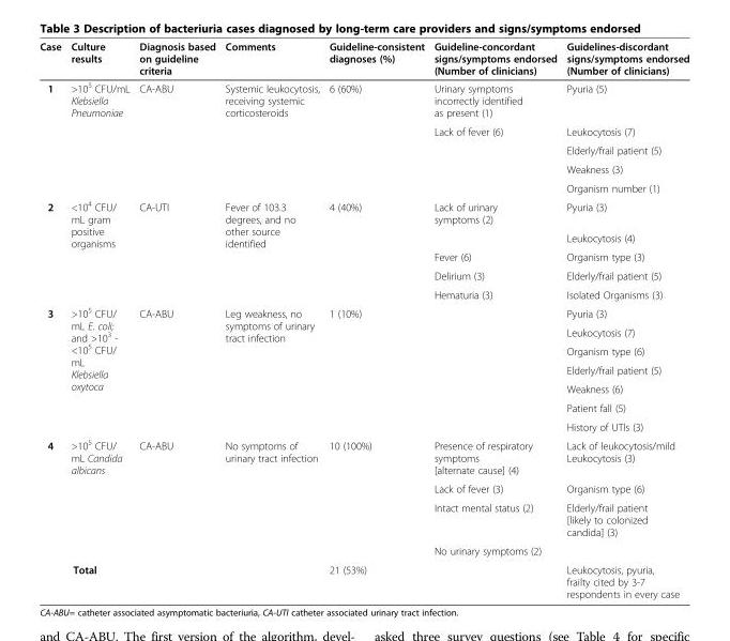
<table><thead><tr><td>Case</td><td>Culture results</td><td>Diagnosis based on guideline criteria</td><td>Comments</td><td>Guideline-consistent diagnoses (%)</td><td>Guideline-concordant signs/symptoms endorsed (Number of clinicians)</td><td>Guidelines-discordant signs/symptoms endorsed (Number of clinicians)</td></tr></thead><tbody><tr><td rowspan="5">1</td><td rowspan="5">&gt;10<sup>5</sup> CFU/mL Klebsiella Pneumoniae</td><td rowspan="5">CA-ABU</td><td rowspan="5">Systemic leukocytosis, receiving systemic corticosteroids</td><td rowspan="5">6 (60%)</td><td>Urinary symptoms incorrectly identified as present (1)</td><td>Pyuria (5)</td></tr><tr><td>Lack of fever (6)</td><td>Leukocytosis (7)</td></tr><tr><td></td><td>Elderly/frail patient (5)</td></tr><tr><td></td><td>Weakness (3)</td></tr><tr><td></td><td>Organism number (1)</td></tr><tr><td rowspan="5">2</td><td rowspan="5">&lt;10<sup>4</sup> CFU/ mL gram positive organisms</td><td rowspan="5">CA-UTI</td><td rowspan="5">Fever of 103.3 degrees, and no other source identified</td><td rowspan="5">4 (40%)</td><td>Lack of urinary symptoms (2)</td><td>Pyuria (3)</td></tr><tr><td></td><td>Leukocytosis (4)</td></tr><tr><td>Fever (6)</td><td>Organism type (3)</td></tr><tr><td>Delirium (3)</td><td>Elderly/frail patient (5)</td></tr><tr><td>Hematuria (3)</td><td>Isolated Organisms (3)</td></tr><tr><td rowspan="7">3</td><td rowspan="7">&gt;10<sup>5</sup> CFU/ mL E. coli; and &gt;10<sup>3</sup> - &lt;10<sup>5</sup> CFU/ mL Klebsiella oxytoca</td><td rowspan="7">CA-ABU</td><td rowspan="7">Leg weakness, no symptoms of urinary tract infection</td><td rowspan="7">1 (10%)</td><td rowspan="7"></td><td>Pyuria (3)</td></tr><tr><td>Leukocytosis (7)</td></tr><tr><td>Organism type (6)</td></tr><tr><td>Elderly/frail patient (5)</td></tr><tr><td>Weakness (6)</td></tr><tr><td>Patient fall (5)</td></tr><tr><td>History of UTIs (3)</td></tr><tr><td rowspan="4">4</td><td rowspan="4">&gt;10<sup>5</sup> CFU/ mL Candida albicans</td><td rowspan="4">CA-ABU</td><td rowspan="4">No symptoms of urinary tract infection</td><td rowspan="4">10 (100%)</td><td>Presence of respiratory symptoms [alternate cause] (4)</td><td>Lack of leukocytosis/mild Leukocytosis (3)</td></tr><tr><td>Lack of fever (3)</td><td>Organism type (6)</td></tr><tr><td>Intact mental status (2)</td><td>Elderly/frail patient [likely to colonized candida] (3)</td></tr><tr><td>No urinary symptoms (2)</td><td></td></tr><tr><td colspan="2">Total</td><td></td><td></td><td>21 (53%)</td><td></td><td>Leukocytosis, pyuria, frailty cited by 3-7 respondents in every case</td></tr></tbody></table>